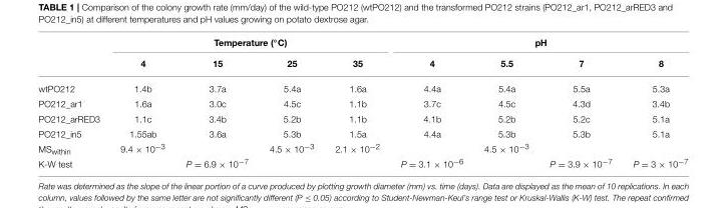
<table><thead><tr><td rowspan="2"></td><td colspan="4">Temperature (◦C)</td><td colspan="4">pH</td></tr><tr><td>4</td><td>15</td><td>25</td><td>35</td><td>4</td><td>5.5</td><td>7</td><td>8</td></tr></thead><tbody><tr><td>wtPO212</td><td>1.4b</td><td>3.7a</td><td>5.4a</td><td>1.6a</td><td>4.4a</td><td>5.4a</td><td>5.5a</td><td>5.3a</td></tr><tr><td>PO212_ar1</td><td>1.6a</td><td>3.0c</td><td>4.5c</td><td>1.1b</td><td>3.7c</td><td>4.5c</td><td>4.3d</td><td>3.4b</td></tr><tr><td>PO212_arRED3</td><td>1.1c</td><td>3.4b</td><td>5.2b</td><td>1.1b</td><td>4.1b</td><td>5.2b</td><td>5.2c</td><td>5.1a</td></tr><tr><td>PO212_in5</td><td>1.55ab</td><td>3.6a</td><td>5.3b</td><td>1.5a</td><td>4.4a</td><td>5.3b</td><td>5.3b</td><td>5.1a</td></tr><tr><td>MS<sub>within</sub></td><td>9.4 × 10<sup>−3</sup></td><td></td><td>4.5 × 10<sup>−3</sup></td><td>2.1 × 10<sup>−2</sup></td><td></td><td>4.5 × 10<sup>−3</sup></td><td></td><td></td></tr><tr><td>K-W test</td><td></td><td>P = 6.9 × 10<sup>−7</sup></td><td></td><td></td><td>P = 3.1 × 10<sup>−6</sup></td><td></td><td>P = 3.9 × 10<sup>−7</sup></td><td>P = 3 × 10<sup>−7</sup></td></tr></tbody></table>